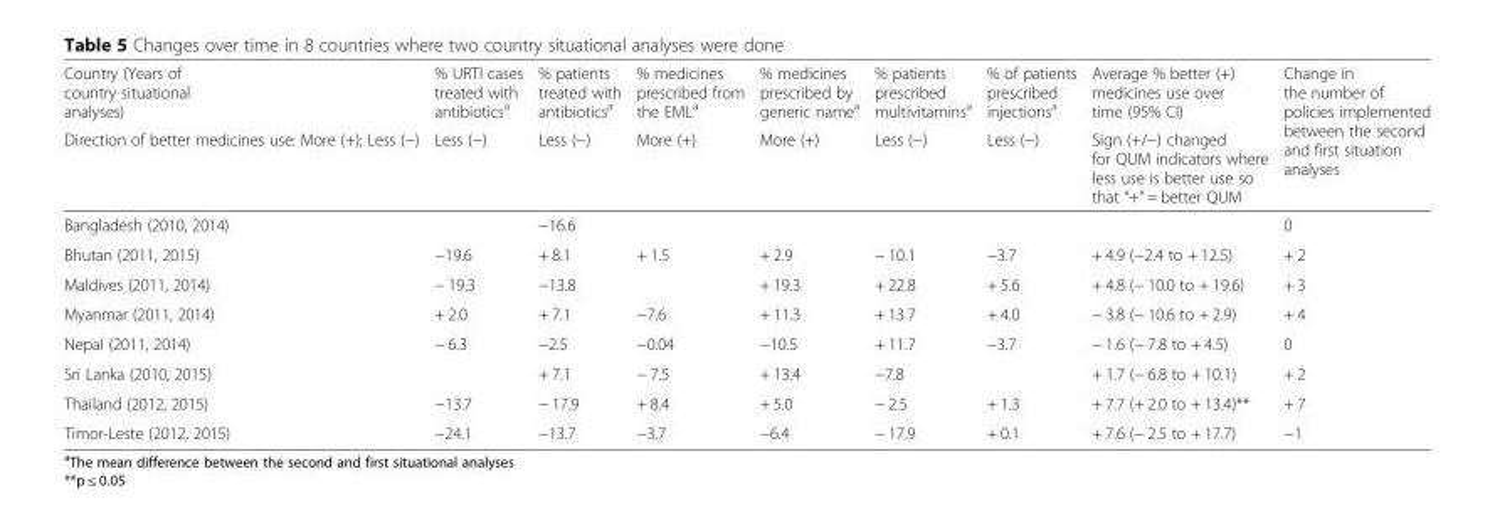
<table><thead><tr><td rowspan="2">Country (Years of country situational analyses) Direction of better medicines use: More (+); Less (−)</td><td rowspan="2">% URTI cases treated with antibiotics<sup>a</sup> Less (−)</td><td rowspan="2">% patients treated with antibiotics<sup>a</sup> Less (−)</td><td rowspan="2">% medicines prescribed from the EML<sup>a</sup> More (+)</td><td rowspan="2">% medicines prescribed by generic name<sup>a</sup> More (+)</td><td rowspan="2">% patients prescribed multivitamins<sup>a</sup> Less (−)</td><td rowspan="2">% of patients prescribed injections<sup>a</sup> Less (−)</td><td rowspan="2">Average % better (+) medicines use over time (95% CI) Sign (+/−) changed for QUM indicators where less use is better use so that “+” = better QUM</td><td rowspan="2">Change in the number of policies implemented between the second and first situation analyses</td></tr><tr></tr></thead><tbody><tr><td>Bangladesh (2010, 2014)</td><td></td><td>−16.6</td><td></td><td></td><td></td><td></td><td></td><td>0</td></tr><tr><td>Bhutan (2011, 2015)</td><td>−19.6</td><td>+ 8.1</td><td>+ 1.5</td><td>+ 2.9</td><td>− 10.1</td><td>−3.7</td><td>+ 4.9 (−2.4 to + 12.5)</td><td>+ 2</td></tr><tr><td>Maldives (2011, 2014)</td><td>− 19.3</td><td>−13.8</td><td></td><td>+ 19.3</td><td>+ 22.8</td><td>+ 5.6</td><td>+ 4.8 (− 10.0 to + 19.6)</td><td>+ 3</td></tr><tr><td>Myanmar (2011, 2014)</td><td>+ 2.0</td><td>+ 7.1</td><td>−7.6</td><td>+ 11.3</td><td>+ 13.7</td><td>+ 4.0</td><td>− 3.8 (− 10.6 to + 2.9)</td><td>+ 4</td></tr><tr><td>Nepal (2011, 2014)</td><td>− 6.3</td><td>−2.5</td><td>−0.04</td><td>−10.5</td><td>+ 11.7</td><td>−3.7</td><td>− 1.6 (− 7.8 to + 4.5)</td><td>0</td></tr><tr><td>Sri Lanka (2010, 2015)</td><td></td><td>+ 7.1</td><td>− 7.5</td><td>+ 13.4</td><td>−7.8</td><td></td><td>+ 1.7 (− 6.8 to + 10.1)</td><td>+ 2</td></tr><tr><td>Thailand (2012, 2015)</td><td>−13.7</td><td>− 17.9</td><td>+ 8.4</td><td>+ 5.0</td><td>− 2.5</td><td>+ 1.3</td><td>+ 7.7 (+ 2.0 to + 13.4)**</td><td>+ 7</td></tr><tr><td>Timor-Leste (2012, 2015)</td><td>−24.1</td><td>−13.7</td><td>−3.7</td><td>−6.4</td><td>− 17.9</td><td>+ 0.1</td><td>+ 7.6 (− 2.5 to + 17.7)</td><td>−1</td></tr></tbody></table>